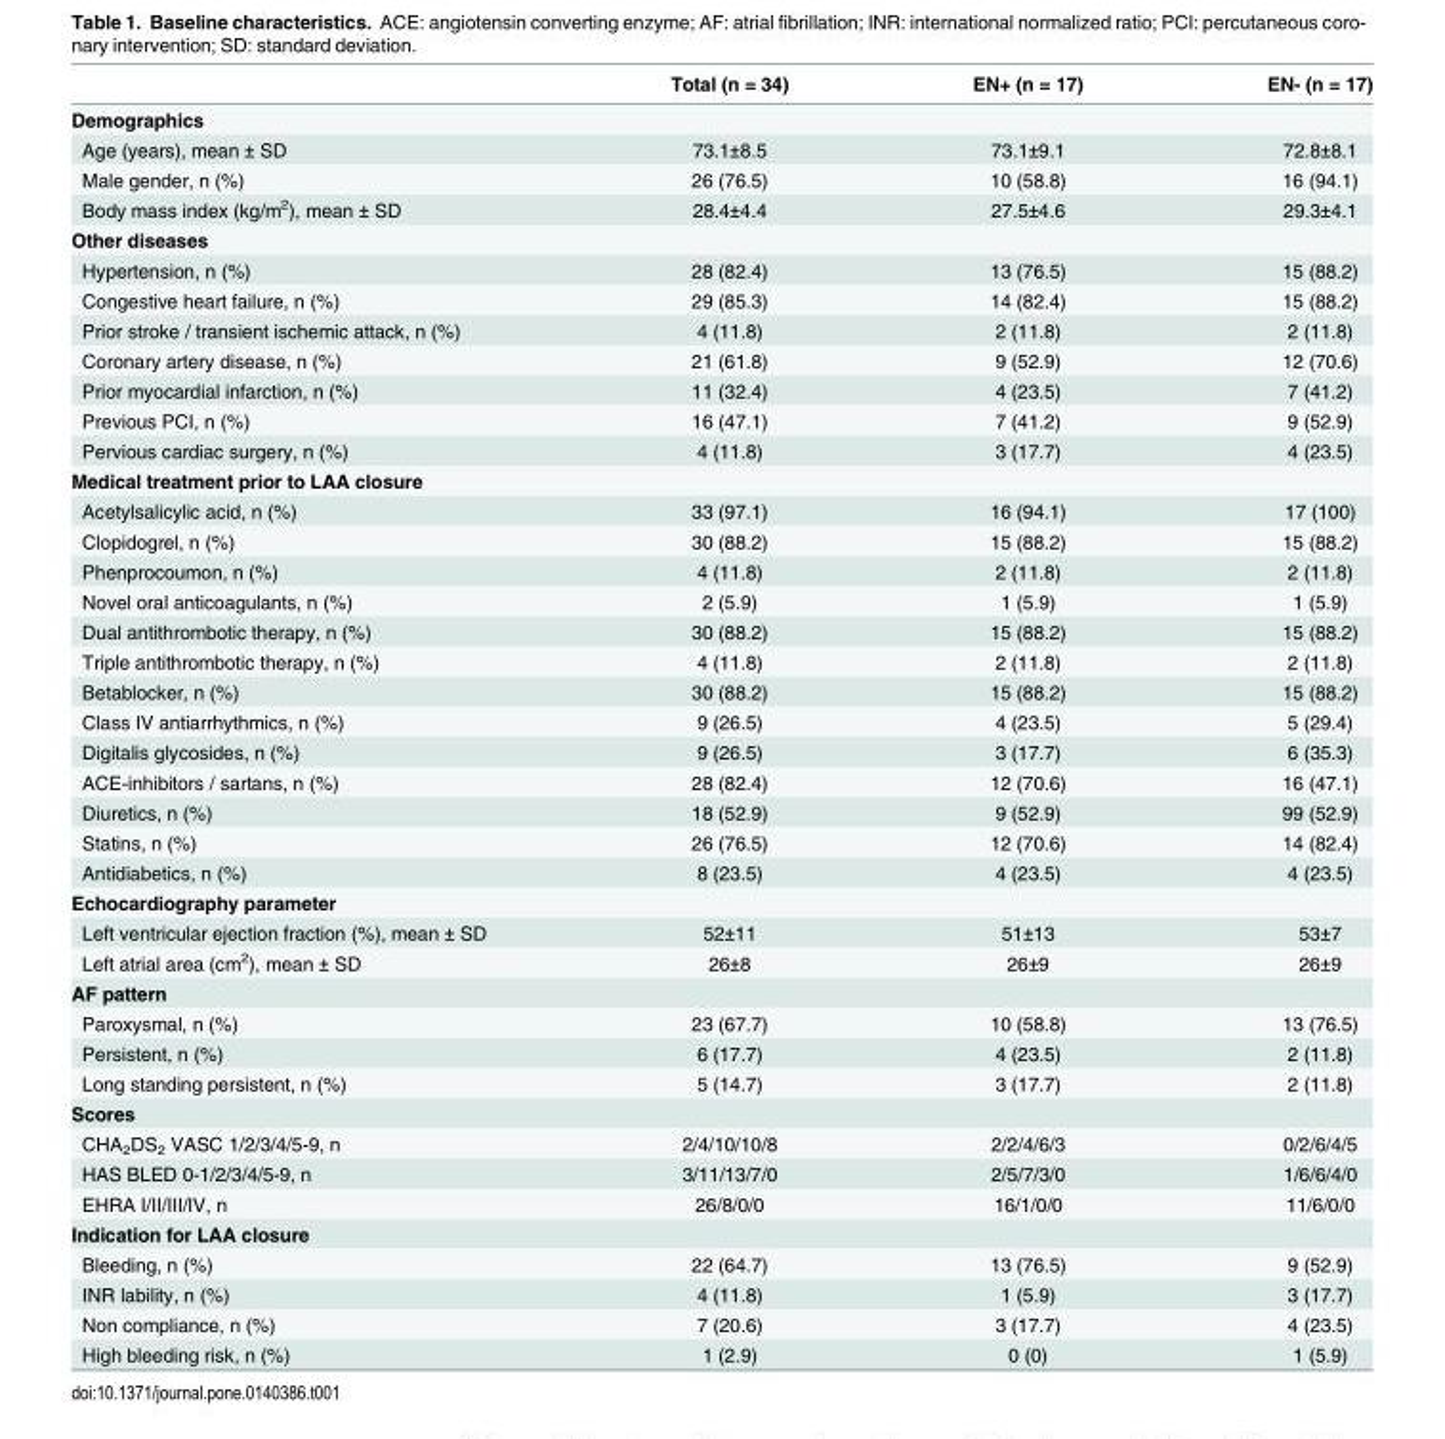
<table><thead><tr><td></td><td>Total (n = 34)</td><td>EN+ (n = 17)</td><td>EN- (n = 17)</td></tr></thead><tbody><tr><td colspan="4">Demographics</td></tr><tr><td>Age (years), mean ± SD</td><td>73.1±8.5</td><td>73.1±9.1</td><td>72.8±8.1</td></tr><tr><td>Male gender, n (%)</td><td>26 (76.5)</td><td>10 (58.8)</td><td>16 (94.1)</td></tr><tr><td>Body mass index (kg/m<sup>2</sup>), mean ± SD</td><td>28.4±4.4</td><td>27.5±4.6</td><td>29.3±4.1</td></tr><tr><td colspan="4">Other diseases</td></tr><tr><td>Hypertension, n (%)</td><td>28 (82.4)</td><td>13 (76.5)</td><td>15 (88.2)</td></tr><tr><td>Congestive heart failure, n (%)</td><td>29 (85.3)</td><td>14 (82.4)</td><td>15 (88.2)</td></tr><tr><td>Prior stroke / transient ischemic attack, n (%)</td><td>4 (11.8)</td><td>2 (11.8)</td><td>2 (11.8)</td></tr><tr><td>Coronary artery disease, n (%)</td><td>21 (61.8)</td><td>9 (52.9)</td><td>12 (70.6)</td></tr><tr><td>Prior myocardial infarction, n (%)</td><td>11 (32.4)</td><td>4 (23.5)</td><td>7 (41.2)</td></tr><tr><td>Previous PCI, n (%)</td><td>16 (47.1)</td><td>7 (41.2)</td><td>9 (52.9)</td></tr><tr><td>Pervious cardiac surgery, n (%)</td><td>4 (11.8)</td><td>3 (17.7)</td><td>4 (23.5)</td></tr><tr><td colspan="4">Medical treatment prior to LAA closure</td></tr><tr><td>Acetylsalicylic acid, n (%)</td><td>33 (97.1)</td><td>16 (94.1)</td><td>17 (100)</td></tr><tr><td>Clopidogrel, n (%)</td><td>30 (88.2)</td><td>15 (88.2)</td><td>15 (88.2)</td></tr><tr><td>Phenprocoumon, n (%)</td><td>4 (11.8)</td><td>2 (11.8)</td><td>2 (11.8)</td></tr><tr><td>Novel oral anticoagulants, n (%)</td><td>2 (5.9)</td><td>1 (5.9)</td><td>1 (5.9)</td></tr><tr><td>Dual antithrombotic therapy, n (%)</td><td>30 (88.2)</td><td>15 (88.2)</td><td>15 (88.2)</td></tr><tr><td>Triple antithrombotic therapy, n (%)</td><td>4 (11.8)</td><td>2 (11.8)</td><td>2 (11.8)</td></tr><tr><td>Betablocker, n (%)</td><td>30 (88.2)</td><td>15 (88.2)</td><td>15 (88.2)</td></tr><tr><td>Class IV antiarrhythmics, n (%)</td><td>9 (26.5)</td><td>4 (23.5)</td><td>5 (29.4)</td></tr><tr><td>Digitalis glycosides, n (%)</td><td>9 (26.5)</td><td>3 (17.7)</td><td>6 (35.3)</td></tr><tr><td>ACE-inhibitors / sartans, n (%)</td><td>28 (82.4)</td><td>12 (70.6)</td><td>16 (47.1)</td></tr><tr><td>Diuretics, n (%)</td><td>18 (52.9)</td><td>9 (52.9)</td><td>99 (52.9)</td></tr><tr><td>Statins, n (%)</td><td>26 (76.5)</td><td>12 (70.6)</td><td>14 (82.4)</td></tr><tr><td>Antidiabetics, n (%)</td><td>8 (23.5)</td><td>4 (23.5)</td><td>4 (23.5)</td></tr><tr><td colspan="4">Echocardiography parameter</td></tr><tr><td>Left ventricular ejection fraction (%), mean ± SD</td><td>52±11</td><td>51±13</td><td>53±7</td></tr><tr><td>Left atrial area (cm<sup>2</sup>), mean ± SD</td><td>26±8</td><td>26±9</td><td>26±9</td></tr><tr><td colspan="4">AF pattern</td></tr><tr><td>Paroxysmal, n (%)</td><td>23 (67.7)</td><td>10 (58.8)</td><td>13 (76.5)</td></tr><tr><td>Persistent, n (%)</td><td>6 (17.7)</td><td>4 (23.5)</td><td>2 (11.8)</td></tr><tr><td>Long standing persistent, n (%)</td><td>5 (14.7)</td><td>3 (17.7)</td><td>2 (11.8)</td></tr><tr><td colspan="4">Scores</td></tr><tr><td>CHA<sub>2</sub>DS<sub>2</sub> VASC 1/2/3/4/5-9, n</td><td>2/4/10/10/8</td><td>2/2/4/6/3</td><td>0/2/6/4/5</td></tr><tr><td>HAS BLED 0-1/2/3/4/5-9, n</td><td>3/11/13/7/0</td><td>2/5/7/3/0</td><td>1/6/6/4/0</td></tr><tr><td>EHRA I/II/III/IV, n</td><td>26/8/0/0</td><td>16/1/0/0</td><td>11/6/0/0</td></tr><tr><td colspan="4">Indication for LAA closure</td></tr><tr><td>Bleeding, n (%)</td><td>22 (64.7)</td><td>13 (76.5)</td><td>9 (52.9)</td></tr><tr><td>INR lability, n (%)</td><td>4 (11.8)</td><td>1 (5.9)</td><td>3 (17.7)</td></tr><tr><td>Non compliance, n (%)</td><td>7 (20.6)</td><td>3 (17.7)</td><td>4 (23.5)</td></tr><tr><td>High bleeding risk, n (%)</td><td>1 (2.9)</td><td>0 (0)</td><td>1 (5.9)</td></tr></tbody></table>